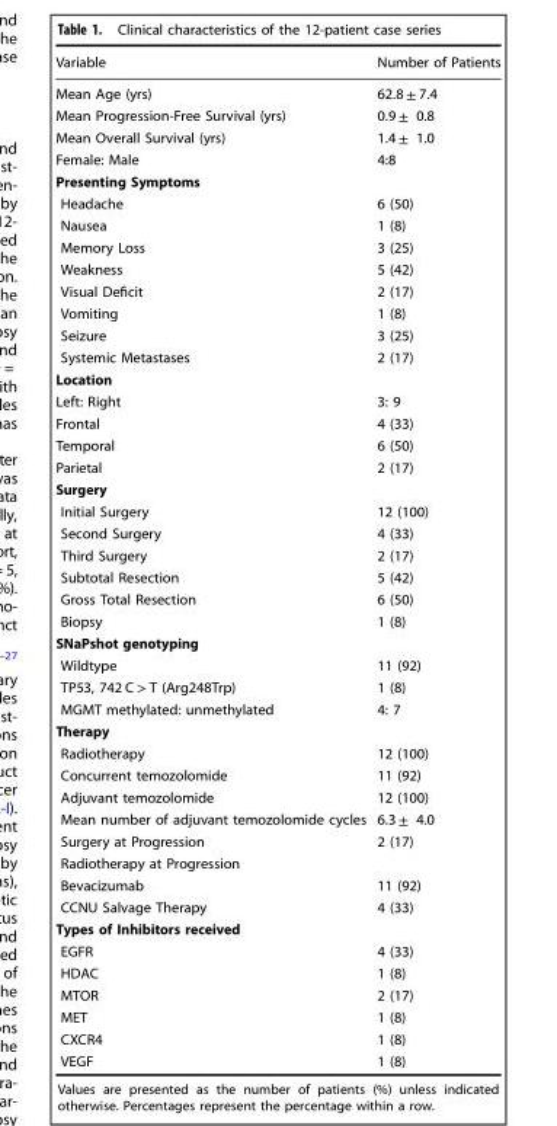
<table><thead><tr><td>Variable</td><td>Number of Patients</td></tr></thead><tbody><tr><td>Mean Age (yrs)</td><td>62.8 ± 7.4</td></tr><tr><td>Mean Progression-Free Survival (yrs)</td><td>0.9 ± 0.8</td></tr><tr><td>Mean Overall Survival (yrs)</td><td>1.4 ± 1.0</td></tr><tr><td>Female: Male</td><td>4:8</td></tr><tr><td colspan="2">Presenting Symptoms</td></tr><tr><td>Headache</td><td>6 (50)</td></tr><tr><td>Nausea</td><td>1 (8)</td></tr><tr><td>Memory Loss</td><td>3 (25)</td></tr><tr><td>Weakness</td><td>5 (42)</td></tr><tr><td>Visual Deficit</td><td>2 (17)</td></tr><tr><td>Vomiting</td><td>1 (8)</td></tr><tr><td>Seizure</td><td>3 (25)</td></tr><tr><td>Systemic Metastases</td><td>2 (17)</td></tr><tr><td colspan="2">Location</td></tr><tr><td>Left: Right</td><td>3: 9</td></tr><tr><td>Frontal</td><td>4 (33)</td></tr><tr><td>Temporal</td><td>6 (50)</td></tr><tr><td>Parietal</td><td>2 (17)</td></tr><tr><td colspan="2">Surgery</td></tr><tr><td>Initial Surgery</td><td>12 (100)</td></tr><tr><td>Second Surgery</td><td>4 (33)</td></tr><tr><td>Third Surgery</td><td>2 (17)</td></tr><tr><td>Subtotal Resection</td><td>5 (42)</td></tr><tr><td>Gross Total Resection</td><td>6 (50)</td></tr><tr><td>Biopsy</td><td>1 (8)</td></tr><tr><td colspan="2">SNaPshot genotyping</td></tr><tr><td>Wildtype</td><td>11 (92)</td></tr><tr><td>TP53, 742 C &gt; T (Arg248Trp)</td><td>1 (8)</td></tr><tr><td>MGMT methylated: unmethylated</td><td>4: 7</td></tr><tr><td colspan="2">Therapy</td></tr><tr><td>Radiotherapy</td><td>12 (100)</td></tr><tr><td>Concurrent temozolomide</td><td>11 (92)</td></tr><tr><td>Adjuvant temozolomide</td><td>12 (100)</td></tr><tr><td>Mean number of adjuvant temozolomide cycles</td><td>6.3 ± 4.0</td></tr><tr><td>Surgery at Progression</td><td>2 (17)</td></tr><tr><td colspan="2">Radiotherapy at Progression</td></tr><tr><td>Bevacizumab</td><td>11 (92)</td></tr><tr><td>CCNU Salvage Therapy</td><td>4 (33)</td></tr><tr><td colspan="2">Types of Inhibitors received</td></tr><tr><td>EGFR</td><td>4 (33)</td></tr><tr><td>HDAC</td><td>1 (8)</td></tr><tr><td>MTOR</td><td>2 (17)</td></tr><tr><td>MET</td><td>1 (8)</td></tr><tr><td>CXCR4</td><td>1 (8)</td></tr><tr><td>VEGF</td><td>1 (8)</td></tr></tbody></table>